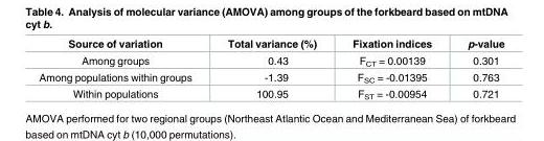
<table><thead><tr><td>Source of variation</td><td>Total variance (%)</td><td>Fixation indices</td><td>p-value</td></tr></thead><tbody><tr><td>Among groups</td><td>0.43</td><td>F<sub>CT</sub> = 0.00139</td><td>0.301</td></tr><tr><td>Among populations within groups</td><td>-1.39</td><td>F<sub>SC</sub> = -0.01395</td><td>0.763</td></tr><tr><td>Within populations</td><td>100.95</td><td>F<sub>ST</sub> = -0.00954</td><td>0.721</td></tr></tbody></table>